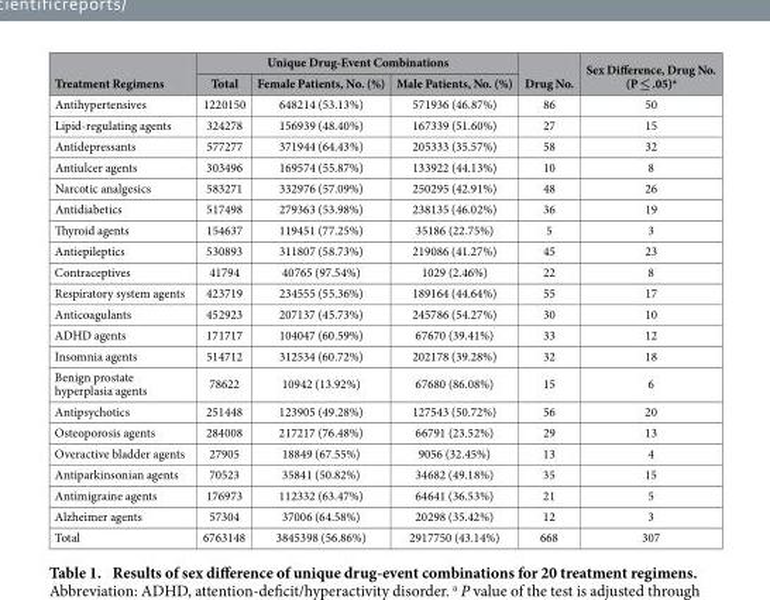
<table><thead><tr><td rowspan="2">Treatment Regimens</td><td colspan="3">Unique Drug-Event Combinations</td><td rowspan="2">Drug No.</td><td rowspan="2">Sex Difference, Drug No. (P ≤ .05)<sup>a</sup></td></tr><tr><td>Total</td><td>Female Patients, No. (%)</td><td>Male Patients, No. (%)</td></tr></thead><tbody><tr><td>Antihypertensives</td><td>1220150</td><td>648214 (53.13%)</td><td>571936 (46.87%)</td><td>86</td><td>50</td></tr><tr><td>Lipid-regulating agents</td><td>324278</td><td>156939 (48.40%)</td><td>167339 (51.60%)</td><td>27</td><td>15</td></tr><tr><td>Antidepressants</td><td>577277</td><td>371944 (64.43%)</td><td>205333 (35.57%)</td><td>58</td><td>32</td></tr><tr><td>Antiulcer agents</td><td>303496</td><td>169574 (55.87%)</td><td>133922 (44.13%)</td><td>10</td><td>8</td></tr><tr><td>Narcotic analgesics</td><td>583271</td><td>332976 (57.09%)</td><td>250295 (42.91%)</td><td>48</td><td>26</td></tr><tr><td>Antidiabetics</td><td>517498</td><td>279363 (53.98%)</td><td>238135 (46.02%)</td><td>36</td><td>19</td></tr><tr><td>Thyroid agents</td><td>154637</td><td>119451 (77.25%)</td><td>35186 (22.75%)</td><td>5</td><td>3</td></tr><tr><td>Antiepileptics</td><td>530893</td><td>311807 (58.73%)</td><td>219086 (41.27%)</td><td>45</td><td>23</td></tr><tr><td>Contraceptives</td><td>41794</td><td>40765 (97.54%)</td><td>1029 (2.46%)</td><td>22</td><td>8</td></tr><tr><td>Respiratory system agents</td><td>423719</td><td>234555 (55.36%)</td><td>189164 (44.64%)</td><td>55</td><td>17</td></tr><tr><td>Anticoagulants</td><td>452923</td><td>207137 (45.73%)</td><td>245786 (54.27%)</td><td>30</td><td>10</td></tr><tr><td>ADHD agents</td><td>171717</td><td>104047 (60.59%)</td><td>67670 (39.41%)</td><td>33</td><td>12</td></tr><tr><td>Insomnia agents</td><td>514712</td><td>312534 (60.72%)</td><td>202178 (39.28%)</td><td>32</td><td>18</td></tr><tr><td>Benign prostate hyperplasia agents</td><td>78622</td><td>10942 (13.92%)</td><td>67680 (86.08%)</td><td>15</td><td>6</td></tr><tr><td>Antipsychotics</td><td>251448</td><td>123905 (49.28%)</td><td>127543 (50.72%)</td><td>56</td><td>20</td></tr><tr><td>Osteoporosis agents</td><td>284008</td><td>217217 (76.48%)</td><td>66791 (23.52%)</td><td>29</td><td>13</td></tr><tr><td>Overactive bladder agents</td><td>27905</td><td>18849 (67.55%)</td><td>9056 (32.45%)</td><td>13</td><td>4</td></tr><tr><td>Antiparkinsonian agents</td><td>70523</td><td>35841 (50.82%)</td><td>34682 (49.18%)</td><td>35</td><td>15</td></tr><tr><td>Antimigraine agents</td><td>176973</td><td>112332 (63.47%)</td><td>64641 (36.53%)</td><td>21</td><td>5</td></tr><tr><td>Alzheimer agents</td><td>57304</td><td>37006 (64.58%)</td><td>20298 (35.42%)</td><td>12</td><td>3</td></tr><tr><td>Total</td><td>6763148</td><td>3845398 (56.86%)</td><td>2917750 (43.14%)</td><td>668</td><td>307</td></tr></tbody></table>